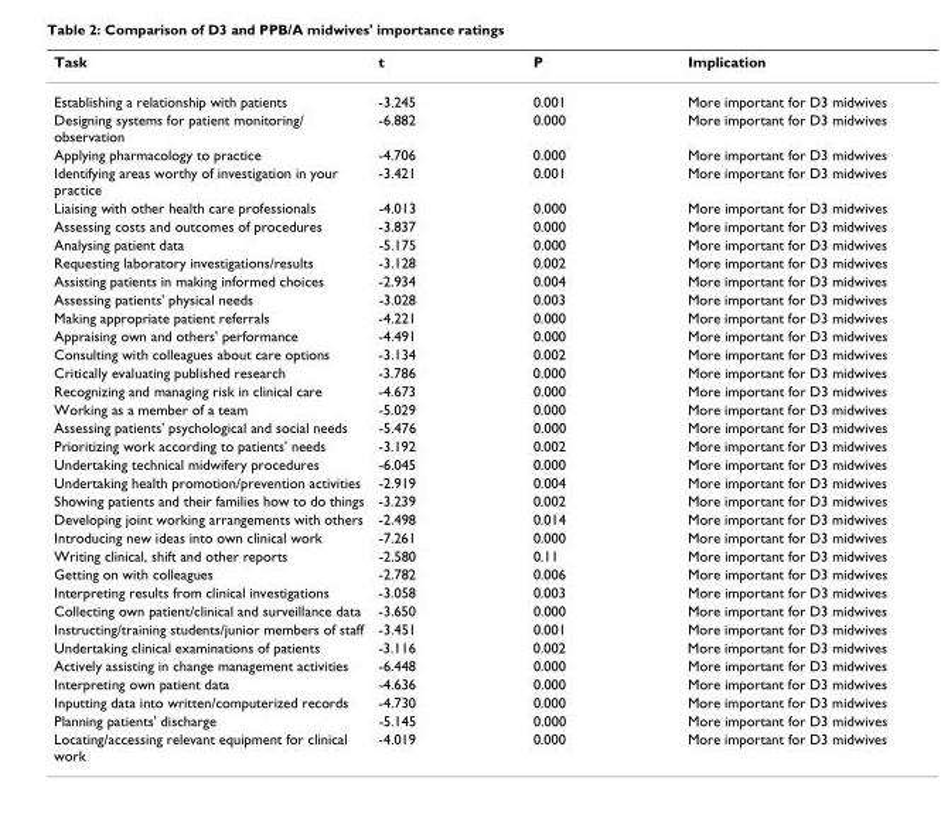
<table><thead><tr><td>Task</td><td>t</td><td>P</td><td>Implication</td></tr></thead><tbody><tr><td>Establishing a relationship with patients</td><td>-3.245</td><td>0.001</td><td>More important for D3 midwives</td></tr><tr><td>Designing systems for patient monitoring/ observation</td><td>-6.882</td><td>0.000</td><td>More important for D3 midwives</td></tr><tr><td>Applying pharmacology to practice</td><td>-4.706</td><td>0.000</td><td>More important for D3 midwives</td></tr><tr><td>Identifying areas worthy of investigation in your practice</td><td>-3.421</td><td>0.001</td><td>More important for D3 midwives</td></tr><tr><td>Liaising with other health care professionals</td><td>-4.013</td><td>0.000</td><td>More important for D3 midwives</td></tr><tr><td>Assessing costs and outcomes of procedures</td><td>-3.837</td><td>0.000</td><td>More important for D3 midwives</td></tr><tr><td>Analysing patient data</td><td>-5.175</td><td>0.000</td><td>More important for D3 midwives</td></tr><tr><td>Requesting laboratory investigations/results</td><td>-3.128</td><td>0.002</td><td>More important for D3 midwives</td></tr><tr><td>Assisting patients in making informed choices</td><td>-2.934</td><td>0.004</td><td>More important for D3 midwives</td></tr><tr><td>Assessing patients&#x27; physical needs</td><td>-3.028</td><td>0.003</td><td>More important for D3 midwives</td></tr><tr><td>Making appropriate patient referrals</td><td>-4.221</td><td>0.000</td><td>More important for D3 midwives</td></tr><tr><td>Appraising own and others&#x27; performance</td><td>-4.491</td><td>0.000</td><td>More important for D3 midwives</td></tr><tr><td>Consulting with colleagues about care options</td><td>-3.134</td><td>0.002</td><td>More important for D3 midwives</td></tr><tr><td>Critically evaluating published research</td><td>-3.786</td><td>0.000</td><td>More important for D3 midwives</td></tr><tr><td>Recognizing and managing risk in clinical care</td><td>-4.673</td><td>0.000</td><td>More important for D3 midwives</td></tr><tr><td>Working as a member of a team</td><td>-5.029</td><td>0.000</td><td>More important for D3 midwives</td></tr><tr><td>Assessing patients&#x27; psychological and social needs</td><td>-5.476</td><td>0.000</td><td>More important for D3 midwives</td></tr><tr><td>Prioritizing work according to patients&#x27; needs</td><td>-3.192</td><td>0.002</td><td>More important for D3 midwives</td></tr><tr><td>Undertaking technical midwifery procedures</td><td>-6.045</td><td>0.000</td><td>More important for D3 midwives</td></tr><tr><td>Undertaking health promotion/prevention activities</td><td>-2.919</td><td>0.004</td><td>More important for D3 midwives</td></tr><tr><td>Showing patients and their families how to do things</td><td>-3.239</td><td>0.002</td><td>More important for D3 midwives</td></tr><tr><td>Developing joint working arrangements with others</td><td>-2.498</td><td>0.014</td><td>More important for D3 midwives</td></tr><tr><td>Introducing new ideas into own clinical work</td><td>-7.261</td><td>0.000</td><td>More important for D3 midwives</td></tr><tr><td>Writing clinical, shift and other reports</td><td>-2.580</td><td>0.11</td><td>More important for D3 midwives</td></tr><tr><td>Getting on with colleagues</td><td>-2.782</td><td>0.006</td><td>More important for D3 midwives</td></tr><tr><td>Interpreting results from clinical investigations</td><td>-3.058</td><td>0.003</td><td>More important for D3 midwives</td></tr><tr><td>Collecting own patient/clinical and surveillance data</td><td>-3.650</td><td>0.000</td><td>More important for D3 midwives</td></tr><tr><td>Instructing/training students/junior members of staff</td><td>-3.451</td><td>0.001</td><td>More important for D3 midwives</td></tr><tr><td>Undertaking clinical examinations of patients</td><td>-3.116</td><td>0.002</td><td>More important for D3 midwives</td></tr><tr><td>Actively assisting in change management activities</td><td>-6.448</td><td>0.000</td><td>More important for D3 midwives</td></tr><tr><td>Interpreting own patient data</td><td>-4.636</td><td>0.000</td><td>More important for D3 midwives</td></tr><tr><td>Inputting data into written/computerized records</td><td>-4.730</td><td>0.000</td><td>More important for D3 midwives</td></tr><tr><td>Planning patients&#x27; discharge</td><td>-5.145</td><td>0.000</td><td>More important for D3 midwives</td></tr><tr><td>Locating/accessing relevant equipment for clinical work</td><td>-4.019</td><td>0.000</td><td>More important for D3 midwives</td></tr></tbody></table>